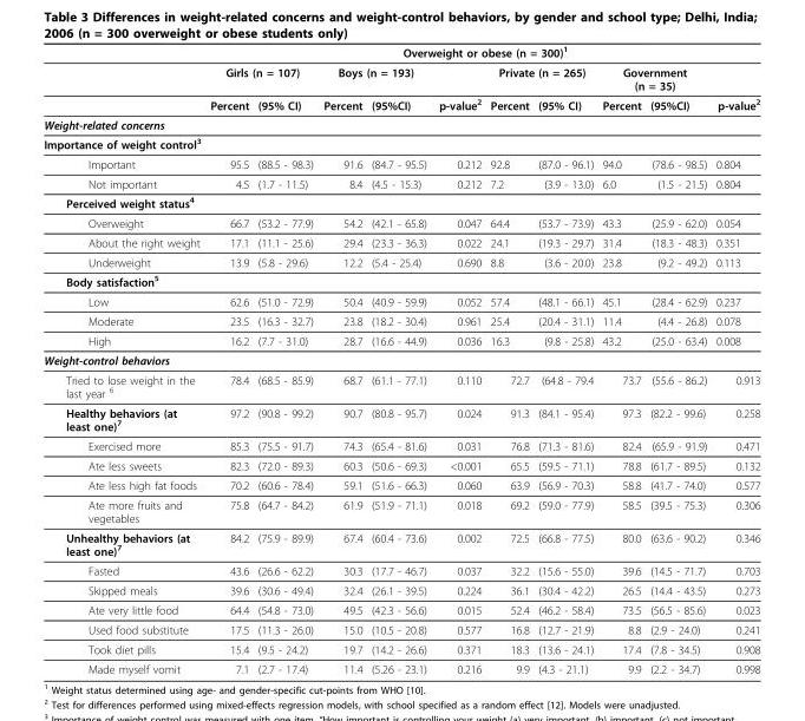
<table><thead><tr><td rowspan="3"></td><td colspan="10">Overweight or obese (n = 300)<sup>1</sup></td></tr><tr><td colspan="2">Girls (n = 107)</td><td colspan="2">Boys (n = 193)</td><td rowspan="2">p-value<sup>2</sup></td><td colspan="2">Private (n = 265)</td><td colspan="2">Government (n = 35)</td><td rowspan="2">p-value<sup>2</sup></td></tr><tr><td>Percent</td><td>(95% CI)</td><td>Percent</td><td>(95%CI)</td><td>Percent</td><td>(95% CI)</td><td>Percent</td><td>(95%CI)</td></tr></thead><tbody><tr><td colspan="11">Weight-related concerns</td></tr><tr><td colspan="11">Importance of weight control<sup>3</sup></td></tr><tr><td>Important</td><td>95.5</td><td>(88.5 - 98.3)</td><td>91.6</td><td>(84.7 - 95.5)</td><td>0.212</td><td>92.8</td><td>(87.0 - 96.1)</td><td>94.0</td><td>(78.6 - 98.5)</td><td>0.804</td></tr><tr><td>Not important</td><td>4.5</td><td>(1.7 - 11.5)</td><td>8.4</td><td>(4.5 - 15.3)</td><td>0.212</td><td>7.2</td><td>(3.9 - 13.0)</td><td>6.0</td><td>(1.5 - 21.5)</td><td>0.804</td></tr><tr><td colspan="11">Perceived weight status<sup>4</sup></td></tr><tr><td>Overweight</td><td>66.7</td><td>(53.2 - 77.9)</td><td>54.2</td><td>(42.1 - 65.8)</td><td>0.047</td><td>64.4</td><td>(53.7 - 73.9)</td><td>43.3</td><td>(25.9 - 62.0)</td><td>0.054</td></tr><tr><td>About the right weight</td><td>17.1</td><td>(11.1 - 25.6)</td><td>29.4</td><td>(23.3 - 36.3)</td><td>0.022</td><td>24.1</td><td>(19.3 - 29.7)</td><td>31.4</td><td>(18.3 - 48.3)</td><td>0.351</td></tr><tr><td>Underweight</td><td>13.9</td><td>(5.8 - 29.6)</td><td>12.2</td><td>(5.4 - 25.4)</td><td>0.690</td><td>8.8</td><td>(3.6 - 20.0)</td><td>23.8</td><td>(9.2 - 49.2)</td><td>0.113</td></tr><tr><td colspan="11">Body satisfaction<sup>5</sup></td></tr><tr><td>Low</td><td>62.6</td><td>(51.0 - 72.9)</td><td>50.4</td><td>(40.9 - 59.9)</td><td>0.052</td><td>57.4</td><td>(48.1 - 66.1)</td><td>45.1</td><td>(28.4 - 62.9)</td><td>0.237</td></tr><tr><td>Moderate</td><td>23.5</td><td>(16.3 - 32.7)</td><td>23.8</td><td>(18.2 - 30.4)</td><td>0.961</td><td>25.4</td><td>(20.4 - 31.1)</td><td>11.4</td><td>(4.4 - 26.8)</td><td>0.078</td></tr><tr><td>High</td><td>16.2</td><td>(7.7 - 31.0)</td><td>28.7</td><td>(16.6 - 44.9)</td><td>0.036</td><td>16.3</td><td>(9.8 - 25.8)</td><td>43.2</td><td>(25.0 - 63.4)</td><td>0.008</td></tr><tr><td colspan="11">Weight-control behaviors</td></tr><tr><td>Tried to lose weight in the last year <sup>6</sup></td><td>78.4</td><td>(68.5 - 85.9)</td><td>68.7</td><td>(61.1 - 77.1)</td><td>0.110</td><td>72.7</td><td>(64.8 - 79.4</td><td>73.7</td><td>(55.6 - 86.2)</td><td>0.913</td></tr><tr><td>Healthy behaviors (at least one)<sup>7</sup></td><td>97.2</td><td>(90.8 - 99.2)</td><td>90.7</td><td>(80.8 - 95.7)</td><td>0.024</td><td>91.3</td><td>(84.1 - 95.4)</td><td>97.3</td><td>(82.2 - 99.6)</td><td>0.258</td></tr><tr><td>Exercised more</td><td>85.3</td><td>(75.5 - 91.7)</td><td>74.3</td><td>(65.4 - 81.6)</td><td>0.031</td><td>76.8</td><td>(71.3 - 81.6)</td><td>82.4</td><td>(65.9 - 91.9)</td><td>0.471</td></tr><tr><td>Ate less sweets</td><td>82.3</td><td>(72.0 - 89.3)</td><td>60.3</td><td>(50.6 - 69.3)</td><td>&lt;0.001</td><td>65.5</td><td>(59.5 - 71.1)</td><td>78.8</td><td>(61.7 - 89.5)</td><td>0.132</td></tr><tr><td>Ate less high fat foods</td><td>70.2</td><td>(60.6 - 78.4)</td><td>59.1</td><td>(51.6 - 66.3)</td><td>0.060</td><td>63.9</td><td>(56.9 - 70.3)</td><td>58.8</td><td>(41.7 - 74.0)</td><td>0.577</td></tr><tr><td>Ate more fruits and vegetables</td><td>75.8</td><td>(64.7 - 84.2)</td><td>61.9</td><td>(51.9 - 71.1)</td><td>0.018</td><td>69.2</td><td>(59.0 - 77.9)</td><td>58.5</td><td>(39.5 - 75.3)</td><td>0.306</td></tr><tr><td>Unhealthy behaviors (at least one)<sup>7</sup></td><td>84.2</td><td>(75.9 - 89.9)</td><td>67.4</td><td>(60.4 - 73.6)</td><td>0.002</td><td>72.5</td><td>(66.8 - 77.5)</td><td>80.0</td><td>(63.6 - 90.2)</td><td>0.346</td></tr><tr><td>Fasted</td><td>43.6</td><td>(26.6 - 62.2)</td><td>30.3</td><td>(17.7 - 46.7)</td><td>0.037</td><td>32.2</td><td>(15.6 - 55.0)</td><td>39.6</td><td>(14.5 - 71.7)</td><td>0.703</td></tr><tr><td>Skipped meals</td><td>39.6</td><td>(30.6 - 49.4)</td><td>32.4</td><td>(26.1 - 39.5)</td><td>0.224</td><td>36.1</td><td>(30.4 - 42.2)</td><td>26.5</td><td>(14.4 - 43.5)</td><td>0.273</td></tr><tr><td>Ate very little food</td><td>64.4</td><td>(54.8 - 73.0)</td><td>49.5</td><td>(42.3 - 56.6)</td><td>0.015</td><td>52.4</td><td>(46.2 - 58.4)</td><td>73.5</td><td>(56.5 - 85.6)</td><td>0.023</td></tr><tr><td>Used food substitute</td><td>17.5</td><td>(11.3 - 26.0)</td><td>15.0</td><td>(10.5 - 20.8)</td><td>0.577</td><td>16.8</td><td>(12.7 - 21.9)</td><td>8.8</td><td>(2.9 - 24.0)</td><td>0.241</td></tr><tr><td>Took diet pills</td><td>15.4</td><td>(9.5 - 24.2)</td><td>19.7</td><td>(14.2 - 26.6)</td><td>0.371</td><td>18.3</td><td>(13.6 - 24.1)</td><td>17.4</td><td>(7.8 - 34.5)</td><td>0.908</td></tr><tr><td>Made myself vomit</td><td>7.1</td><td>(2.7 - 17.4)</td><td>11.4</td><td>(5.26 - 23.1)</td><td>0.216</td><td>9.9</td><td>(4.3 - 21.1)</td><td>9.9</td><td>(2.2 - 34.7)</td><td>0.998</td></tr></tbody></table>